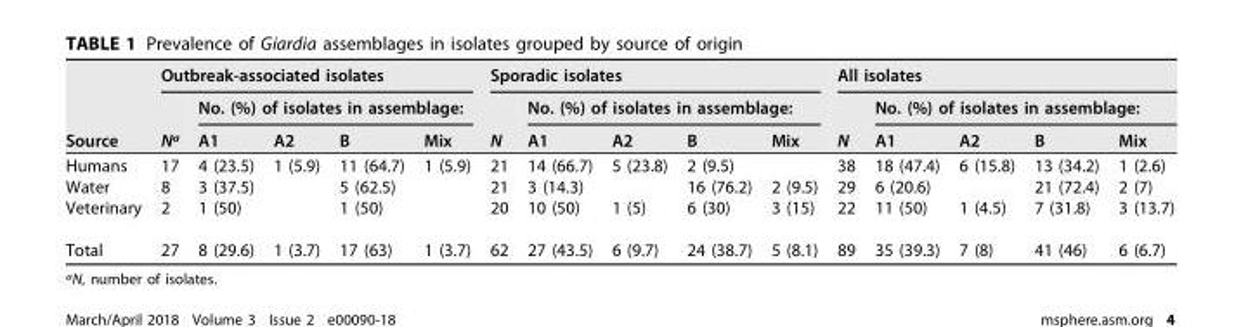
<table><thead><tr><td rowspan="3">Source</td><td colspan="5">Outbreak-associated isolates</td><td colspan="5">Sporadic isolates</td><td colspan="5">All isolates</td></tr><tr><td rowspan="2">N<sup>a</sup></td><td colspan="4">No. (%) of isolates in assemblage:</td><td rowspan="2">N</td><td colspan="4">No. (%) of isolates in assemblage:</td><td rowspan="2">N</td><td colspan="4">No. (%) of isolates in assemblage:</td></tr><tr><td>A1</td><td>A2</td><td>B</td><td>Mix</td><td>A1</td><td>A2</td><td>B</td><td>Mix</td><td>A1</td><td>A2</td><td>B</td><td>Mix</td></tr></thead><tbody><tr><td>Humans</td><td>17</td><td>4 (23.5)</td><td>1 (5.9)</td><td>11 (64.7)</td><td>1 (5.9)</td><td>21</td><td>14 (66.7)</td><td>5 (23.8)</td><td>2 (9.5)</td><td></td><td>38</td><td>18 (47.4)</td><td>6 (15.8)</td><td>13 (34.2)</td><td>1 (2.6)</td></tr><tr><td>Water</td><td>8</td><td>3 (37.5)</td><td></td><td>5 (62.5)</td><td></td><td>21</td><td>3 (14.3)</td><td></td><td>16 (76.2)</td><td>2 (9.5)</td><td>29</td><td>6 (20.6)</td><td></td><td>21 (72.4)</td><td>2 (7)</td></tr><tr><td>Veterinary</td><td>2</td><td>1 (50)</td><td></td><td>1 (50)</td><td></td><td>20</td><td>10 (50)</td><td>1 (5)</td><td>6 (30)</td><td>3 (15)</td><td>22</td><td>11 (50)</td><td>1 (4.5)</td><td>7 (31.8)</td><td>3 (13.7)</td></tr><tr><td>Total</td><td>27</td><td>8 (29.6)</td><td>1 (3.7)</td><td>17 (63)</td><td>1 (3.7)</td><td>62</td><td>27 (43.5)</td><td>6 (9.7)</td><td>24 (38.7)</td><td>5 (8.1)</td><td>89</td><td>35 (39.3)</td><td>7 (8)</td><td>41 (46)</td><td>6 (6.7)</td></tr></tbody></table>